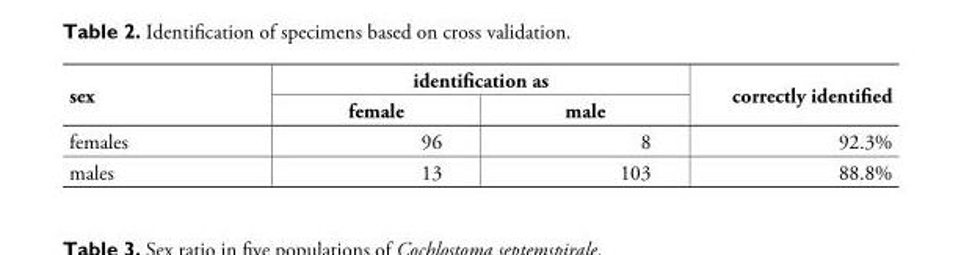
<table><thead><tr><td rowspan="2">sex</td><td colspan="2">identification as</td><td rowspan="2">correctly identified</td></tr><tr><td>female</td><td>male</td></tr></thead><tbody><tr><td>females</td><td>96</td><td>8</td><td>92.3%</td></tr><tr><td>males</td><td>13</td><td>103</td><td>88.8%</td></tr></tbody></table>